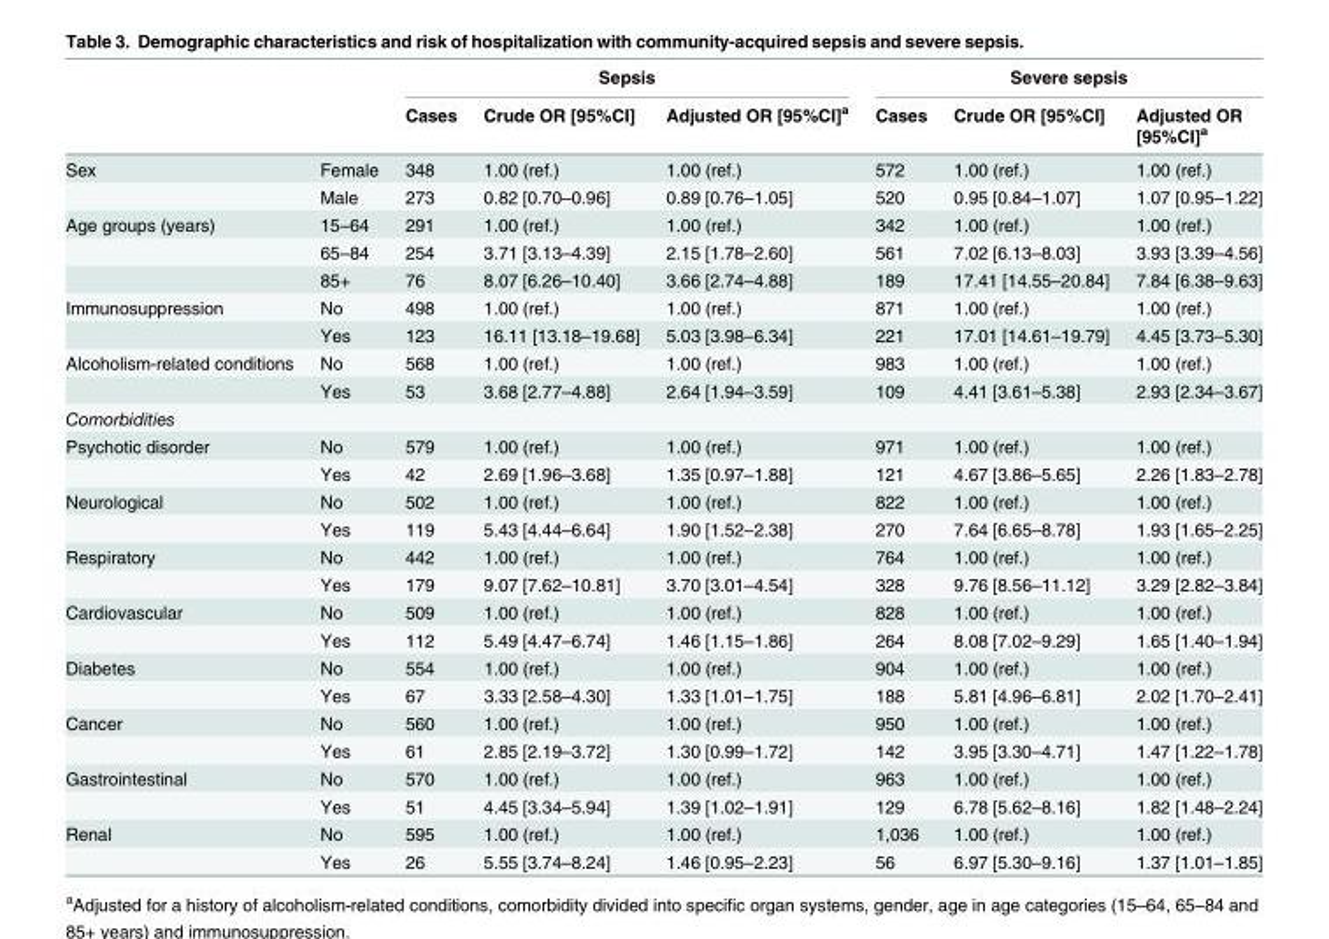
<table><thead><tr><td rowspan="2"></td><td rowspan="2"></td><td colspan="3">Sepsis</td><td colspan="3">Severe sepsis</td></tr><tr><td>Cases</td><td>Crude OR [95%CI]</td><td>Adjusted OR [95%CI]<sup>a</sup></td><td>Cases</td><td>Crude OR [95%CI]</td><td>Adjusted OR [95%CI]<sup>a</sup></td></tr></thead><tbody><tr><td rowspan="2">Sex</td><td>Female</td><td>348</td><td>1.00 (ref.)</td><td>1.00 (ref.)</td><td>572</td><td>1.00 (ref.)</td><td>1.00 (ref.)</td></tr><tr><td>Male</td><td>273</td><td>0.82 [0.70–0.96]</td><td>0.89 [0.76–1.05]</td><td>520</td><td>0.95 [0.84–1.07]</td><td>1.07 [0.95–1.22]</td></tr><tr><td rowspan="3">Age groups (years)</td><td>15–64</td><td>291</td><td>1.00 (ref.)</td><td>1.00 (ref.)</td><td>342</td><td>1.00 (ref.)</td><td>1.00 (ref.)</td></tr><tr><td>65–84</td><td>254</td><td>3.71 [3.13–4.39]</td><td>2.15 [1.78–2.60]</td><td>561</td><td>7.02 [6.13–8.03]</td><td>3.93 [3.39–4.56]</td></tr><tr><td>85+</td><td>76</td><td>8.07 [6.26–10.40]</td><td>3.66 [2.74–4.88]</td><td>189</td><td>17.41 [14.55–20.84]</td><td>7.84 [6.38–9.63]</td></tr><tr><td rowspan="2">Immunosuppression</td><td>No</td><td>498</td><td>1.00 (ref.)</td><td>1.00 (ref.)</td><td>871</td><td>1.00 (ref.)</td><td>1.00 (ref.)</td></tr><tr><td>Yes</td><td>123</td><td>16.11 [13.18–19.68]</td><td>5.03 [3.98–6.34]</td><td>221</td><td>17.01 [14.61–19.79]</td><td>4.45 [3.73–5.30]</td></tr><tr><td rowspan="2">Alcoholism-related conditions</td><td>No</td><td>568</td><td>1.00 (ref.)</td><td>1.00 (ref.)</td><td>983</td><td>1.00 (ref.)</td><td>1.00 (ref.)</td></tr><tr><td>Yes</td><td>53</td><td>3.68 [2.77–4.88]</td><td>2.64 [1.94–3.59]</td><td>109</td><td>4.41 [3.61–5.38]</td><td>2.93 [2.34–3.67]</td></tr><tr><td colspan="8">Comorbidities</td></tr><tr><td rowspan="2">Psychotic disorder</td><td>No</td><td>579</td><td>1.00 (ref.)</td><td>1.00 (ref.)</td><td>971</td><td>1.00 (ref.)</td><td>1.00 (ref.)</td></tr><tr><td>Yes</td><td>42</td><td>2.69 [1.96–3.68]</td><td>1.35 [0.97–1.88]</td><td>121</td><td>4.67 [3.86–5.65]</td><td>2.26 [1.83–2.78]</td></tr><tr><td rowspan="2">Neurological</td><td>No</td><td>502</td><td>1.00 (ref.)</td><td>1.00 (ref.)</td><td>822</td><td>1.00 (ref.)</td><td>1.00 (ref.)</td></tr><tr><td>Yes</td><td>119</td><td>5.43 [4.44–6.64]</td><td>1.90 [1.52–2.38]</td><td>270</td><td>7.64 [6.65–8.78]</td><td>1.93 [1.65–2.25]</td></tr><tr><td rowspan="2">Respiratory</td><td>No</td><td>442</td><td>1.00 (ref.)</td><td>1.00 (ref.)</td><td>764</td><td>1.00 (ref.)</td><td>1.00 (ref.)</td></tr><tr><td>Yes</td><td>179</td><td>9.07 [7.62–10.81]</td><td>3.70 [3.01–4.54]</td><td>328</td><td>9.76 [8.56–11.12]</td><td>3.29 [2.82–3.84]</td></tr><tr><td rowspan="2">Cardiovascular</td><td>No</td><td>509</td><td>1.00 (ref.)</td><td>1.00 (ref.)</td><td>828</td><td>1.00 (ref.)</td><td>1.00 (ref.)</td></tr><tr><td>Yes</td><td>112</td><td>5.49 [4.47–6.74]</td><td>1.46 [1.15–1.86]</td><td>264</td><td>8.08 [7.02–9.29]</td><td>1.65 [1.40–1.94]</td></tr><tr><td rowspan="2">Diabetes</td><td>No</td><td>554</td><td>1.00 (ref.)</td><td>1.00 (ref.)</td><td>904</td><td>1.00 (ref.)</td><td>1.00 (ref.)</td></tr><tr><td>Yes</td><td>67</td><td>3.33 [2.58–4.30]</td><td>1.33 [1.01–1.75]</td><td>188</td><td>5.81 [4.96–6.81]</td><td>2.02 [1.70–2.41]</td></tr><tr><td rowspan="2">Cancer</td><td>No</td><td>560</td><td>1.00 (ref.)</td><td>1.00 (ref.)</td><td>950</td><td>1.00 (ref.)</td><td>1.00 (ref.)</td></tr><tr><td>Yes</td><td>61</td><td>2.85 [2.19–3.72]</td><td>1.30 [0.99–1.72]</td><td>142</td><td>3.95 [3.30–4.71]</td><td>1.47 [1.22–1.78]</td></tr><tr><td rowspan="2">Gastrointestinal</td><td>No</td><td>570</td><td>1.00 (ref.)</td><td>1.00 (ref.)</td><td>963</td><td>1.00 (ref.)</td><td>1.00 (ref.)</td></tr><tr><td>Yes</td><td>51</td><td>4.45 [3.34–5.94]</td><td>1.39 [1.02–1.91]</td><td>129</td><td>6.78 [5.62–8.16]</td><td>1.82 [1.48–2.24]</td></tr><tr><td rowspan="2">Renal</td><td>No</td><td>595</td><td>1.00 (ref.)</td><td>1.00 (ref.)</td><td>1,036</td><td>1.00 (ref.)</td><td>1.00 (ref.)</td></tr><tr><td>Yes</td><td>26</td><td>5.55 [3.74–8.24]</td><td>1.46 [0.95–2.23]</td><td>56</td><td>6.97 [5.30–9.16]</td><td>1.37 [1.01–1.85]</td></tr></tbody></table>